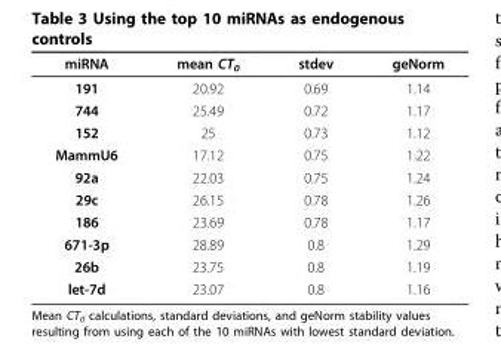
<table><thead><tr><td>miRNA</td><td>mean CT<sub>0</sub></td><td>stdev</td><td>geNorm</td></tr></thead><tbody><tr><td>191</td><td>20.92</td><td>0.69</td><td>1.14</td></tr><tr><td>744</td><td>25.49</td><td>0.72</td><td>1.17</td></tr><tr><td>152</td><td>25</td><td>0.73</td><td>1.12</td></tr><tr><td>MammU6</td><td>17.12</td><td>0.75</td><td>1.22</td></tr><tr><td>92a</td><td>22.03</td><td>0.75</td><td>1.24</td></tr><tr><td>29c</td><td>26.15</td><td>0.78</td><td>1.26</td></tr><tr><td>186</td><td>23.69</td><td>0.78</td><td>1.17</td></tr><tr><td>671-3p</td><td>28.89</td><td>0.8</td><td>1.29</td></tr><tr><td>26b</td><td>23.75</td><td>0.8</td><td>1.19</td></tr><tr><td>let-7d</td><td>23.07</td><td>0.8</td><td>1.16</td></tr></tbody></table>